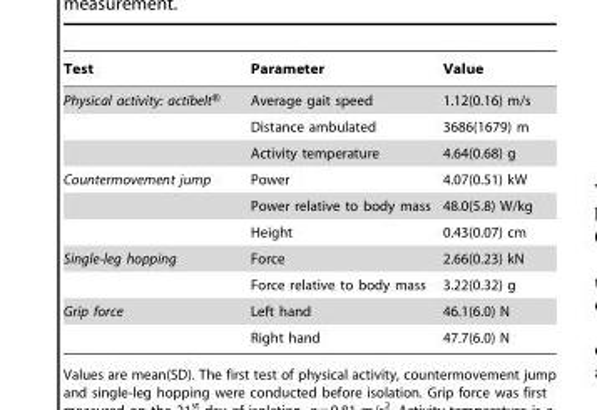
<table><thead><tr><td>Test</td><td>Parameter</td><td>Value</td></tr></thead><tbody><tr><td rowspan="3">Physical activity: actibelt®</td><td>Average gait speed</td><td>1.12(0.16) m/s</td></tr><tr><td>Distance ambulated</td><td>3686(1679) m</td></tr><tr><td>Activity temperature</td><td>4.64(0.68) g</td></tr><tr><td rowspan="3">Countermovement jump</td><td>Power</td><td>4.07(0.51) kW</td></tr><tr><td>Power relative to body mass</td><td>48.0(5.8) W/kg</td></tr><tr><td>Height</td><td>0.43(0.07) cm</td></tr><tr><td rowspan="2">Single-leg hopping</td><td>Force</td><td>2.66(0.23) kN</td></tr><tr><td>Force relative to body mass</td><td>3.22(0.32) g</td></tr><tr><td rowspan="2">Grip force</td><td>Left hand</td><td>46.1(6.0) N</td></tr><tr><td>Right hand</td><td>47.7(6.0) N</td></tr></tbody></table>